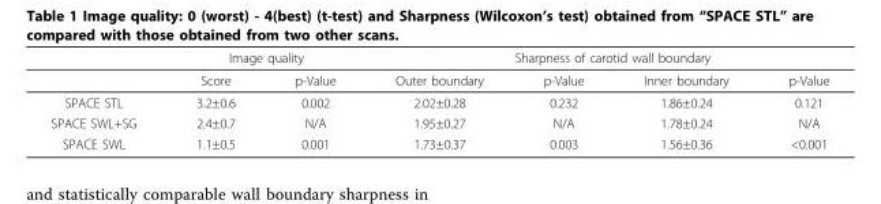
<table><thead><tr><td rowspan="2"></td><td colspan="2">Image quality</td><td colspan="4">Sharpness of carotid wall boundary</td></tr><tr><td>Score</td><td>p-Value</td><td>Outer boundary</td><td>p-Value</td><td>Inner boundary</td><td>p-Value</td></tr></thead><tbody><tr><td>SPACE STL</td><td>3.2±0.6</td><td>0.002</td><td>2.02±0.28</td><td>0.232</td><td>1.86±0.24</td><td>0.121</td></tr><tr><td>SPACE SWL+SG</td><td>2.4±0.7</td><td>N/A</td><td>1.95±0.27</td><td>N/A</td><td>1.78±0.24</td><td>N/A</td></tr><tr><td>SPACE SWL</td><td>1.1±0.5</td><td>0.001</td><td>1.73±0.37</td><td>0.003</td><td>1.56±0.36</td><td>&lt;0.001</td></tr></tbody></table>